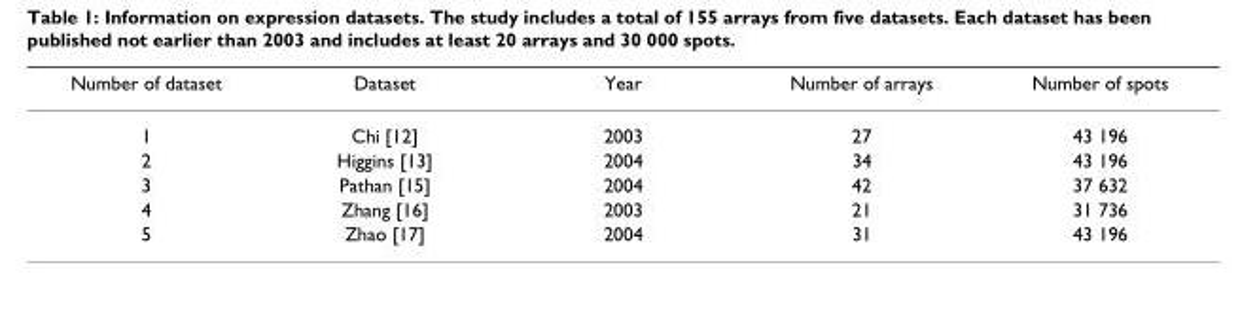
<table><thead><tr><td>Number of dataset</td><td>Dataset</td><td>Year</td><td>Number of arrays</td><td>Number of spots</td></tr></thead><tbody><tr><td>1</td><td>Chi [12]</td><td>2003</td><td>27</td><td>43 196</td></tr><tr><td>2</td><td>Higgins [13]</td><td>2004</td><td>34</td><td>43 196</td></tr><tr><td>3</td><td>Pathan [15]</td><td>2004</td><td>42</td><td>37 632</td></tr><tr><td>4</td><td>Zhang [16]</td><td>2003</td><td>21</td><td>31 736</td></tr><tr><td>5</td><td>Zhao [17]</td><td>2004</td><td>31</td><td>43 196</td></tr></tbody></table>